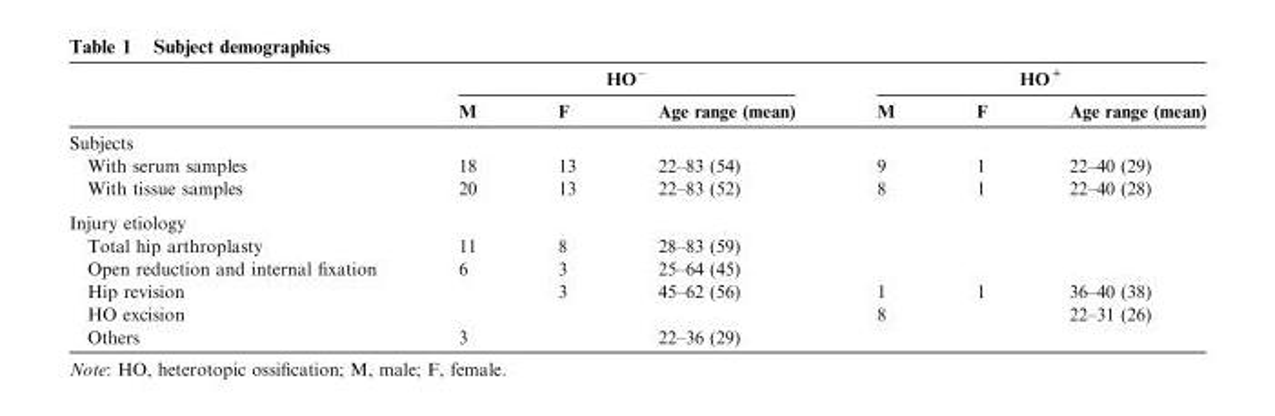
<table><thead><tr><td rowspan="2"></td><td colspan="3">HO<sup>−</sup></td><td colspan="3">HO<sup>+</sup></td></tr><tr><td>M</td><td>F</td><td>Age range (mean)</td><td>M</td><td>F</td><td>Age range (mean)</td></tr></thead><tbody><tr><td colspan="7">Subjects</td></tr><tr><td>With serum samples</td><td>18</td><td>13</td><td>22–83 (54)</td><td>9</td><td>1</td><td>22–40 (29)</td></tr><tr><td>With tissue samples</td><td>20</td><td>13</td><td>22–83 (52)</td><td>8</td><td>1</td><td>22–40 (28)</td></tr><tr><td colspan="7">Injury etiology</td></tr><tr><td>Total hip arthroplasty</td><td>11</td><td>8</td><td>28–83 (59)</td><td></td><td></td><td></td></tr><tr><td>Open reduction and internal fixation</td><td>6</td><td>3</td><td>25–64 (45)</td><td></td><td></td><td></td></tr><tr><td>Hip revision</td><td></td><td>3</td><td>45–62 (56)</td><td>1</td><td>1</td><td>36–40 (38)</td></tr><tr><td>HO excision</td><td></td><td></td><td></td><td>8</td><td></td><td>22–31 (26)</td></tr><tr><td>Others</td><td>3</td><td></td><td>22–36 (29)</td><td></td><td></td><td></td></tr></tbody></table>